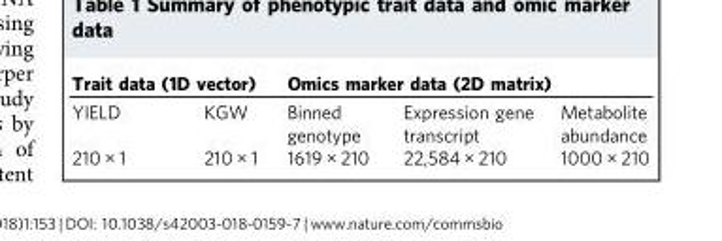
<table><thead><tr><td colspan="2">Trait data (1D vector)</td><td colspan="3">Omics marker data (2D matrix)</td></tr><tr><td>YIELD</td><td>KGW</td><td>Binned genotype</td><td>Expression gene transcript</td><td>Metabolite abundance</td></tr></thead><tbody><tr><td>210 × 1</td><td>210 × 1</td><td>1619 × 210</td><td>22,584 × 210</td><td>1000 × 210</td></tr></tbody></table>